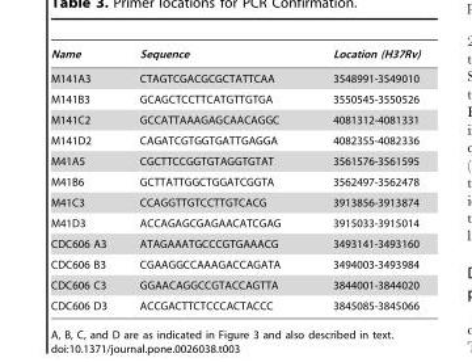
<table><thead><tr><td>Name</td><td>Sequence</td><td>Location (H37Rv)</td></tr></thead><tbody><tr><td>M141A3</td><td>CTAGTCGACGCGCTATTCAA</td><td>3548991-3549010</td></tr><tr><td>M141B3</td><td>GCAGCTCCTTCATGTTGTGA</td><td>3550545-3550526</td></tr><tr><td>M141C2</td><td>GCCATTAAAGAGCAACAGGC</td><td>4081312-4081331</td></tr><tr><td>M141D2</td><td>CAGATCGTGGTGATTGAGGA</td><td>4082355-4082336</td></tr><tr><td>M41A5</td><td>CGCTTCCGGTGTAGGTGTAT</td><td>3561576-3561595</td></tr><tr><td>M41B6</td><td>GCTTATTGGCTGGATCGGTA</td><td>3562497-3562478</td></tr><tr><td>M41C3</td><td>CCAGGTTGTCCTTGTCACG</td><td>3913856-3913874</td></tr><tr><td>M41D3</td><td>ACCAGAGCGAGAACATCGAG</td><td>3915033-3915014</td></tr><tr><td>CDC606 A3</td><td>ATAGAAATGCCCGTGAAACG</td><td>3493141-3493160</td></tr><tr><td>CDC606 B3</td><td>CGAAGGCCAAAGACCAGATA</td><td>3494003-3493984</td></tr><tr><td>CDC606 C3</td><td>GGAACAGGCCGTACCAGTTA</td><td>3844001-3844020</td></tr><tr><td>CDC606 D3</td><td>ACCGACTTCTCCCACTACCC</td><td>3845085-3845066</td></tr></tbody></table>